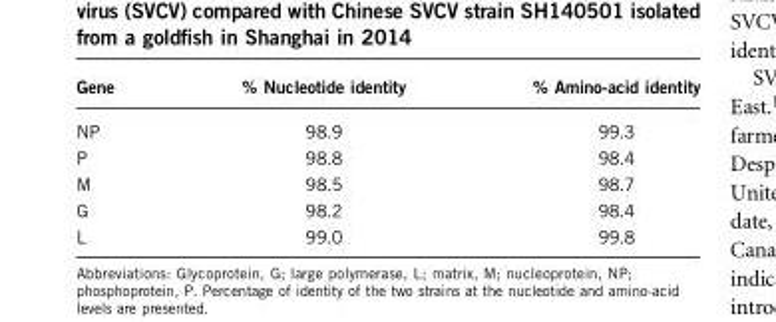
<table><thead><tr><td>Gene</td><td>% Nucleotide identity</td><td>% Amino-acid identity</td></tr></thead><tbody><tr><td>NP</td><td>98.9</td><td>99.3</td></tr><tr><td>P</td><td>98.8</td><td>98.4</td></tr><tr><td>M</td><td>98.5</td><td>98.7</td></tr><tr><td>G</td><td>98.2</td><td>98.4</td></tr><tr><td>L</td><td>99.0</td><td>99.8</td></tr></tbody></table>